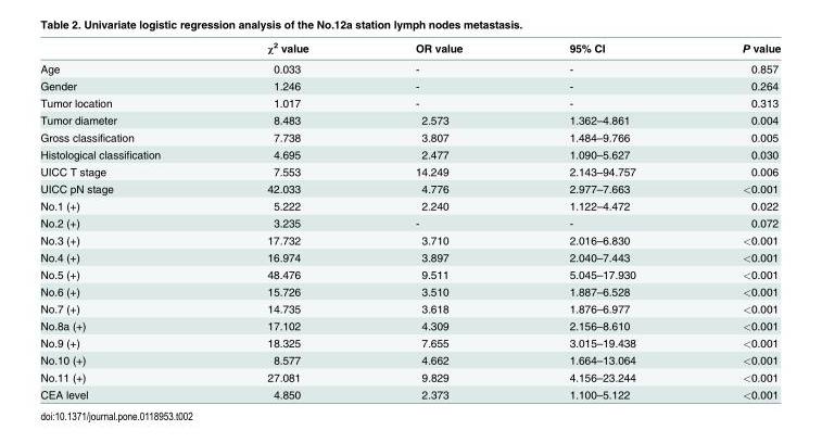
<table><thead><tr><td></td><td>χ<sup>2</sup> value</td><td>OR value</td><td>95% CI</td><td>P value</td></tr></thead><tbody><tr><td>Age</td><td>0.033</td><td>-</td><td>-</td><td>0.857</td></tr><tr><td>Gender</td><td>1.246</td><td>-</td><td>-</td><td>0.264</td></tr><tr><td>Tumor location</td><td>1.017</td><td>-</td><td>-</td><td>0.313</td></tr><tr><td>Tumor diameter</td><td>8.483</td><td>2.573</td><td>1.362–4.861</td><td>0.004</td></tr><tr><td>Gross classification</td><td>7.738</td><td>3.807</td><td>1.484–9.766</td><td>0.005</td></tr><tr><td>Histological classification</td><td>4.695</td><td>2.477</td><td>1.090–5.627</td><td>0.030</td></tr><tr><td>UICC T stage</td><td>7.553</td><td>14.249</td><td>2.143–94.757</td><td>0.006</td></tr><tr><td>UICC pN stage</td><td>42.033</td><td>4.776</td><td>2.977–7.663</td><td>&lt;0.001</td></tr><tr><td>No.1 (+)</td><td>5.222</td><td>2.240</td><td>1.122–4.472</td><td>0.022</td></tr><tr><td>No.2 (+)</td><td>3.235</td><td>-</td><td>-</td><td>0.072</td></tr><tr><td>No.3 (+)</td><td>17.732</td><td>3.710</td><td>2.016–6.830</td><td>&lt;0.001</td></tr><tr><td>No.4 (+)</td><td>16.974</td><td>3.897</td><td>2.040–7.443</td><td>&lt;0.001</td></tr><tr><td>No.5 (+)</td><td>48.476</td><td>9.511</td><td>5.045–17.930</td><td>&lt;0.001</td></tr><tr><td>No.6 (+)</td><td>15.726</td><td>3.510</td><td>1.887–6.528</td><td>&lt;0.001</td></tr><tr><td>No.7 (+)</td><td>14.735</td><td>3.618</td><td>1.876–6.977</td><td>&lt;0.001</td></tr><tr><td>No.8a (+)</td><td>17.102</td><td>4.309</td><td>2.156–8.610</td><td>&lt;0.001</td></tr><tr><td>No.9 (+)</td><td>18.325</td><td>7.655</td><td>3.015–19.438</td><td>&lt;0.001</td></tr><tr><td>No.10 (+)</td><td>8.577</td><td>4.662</td><td>1.664–13.064</td><td>&lt;0.001</td></tr><tr><td>No.11 (+)</td><td>27.081</td><td>9.829</td><td>4.156–23.244</td><td>&lt;0.001</td></tr><tr><td>CEA level</td><td>4.850</td><td>2.373</td><td>1.100–5.122</td><td>&lt;0.001</td></tr></tbody></table>